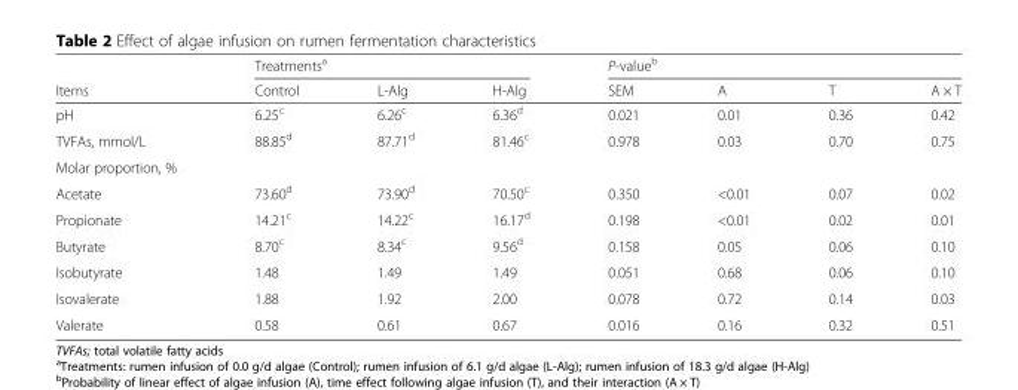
<table><thead><tr><td rowspan="2">Items</td><td colspan="3">Treatments<sup>a</sup></td><td colspan="4">P-value<sup>b</sup></td></tr><tr><td>Control</td><td>L-Alg</td><td>H-Alg</td><td>SEM</td><td>A</td><td>T</td><td>A × T</td></tr></thead><tbody><tr><td>pH</td><td>6.25<sup>c</sup></td><td>6.26<sup>c</sup></td><td>6.36<sup>d</sup></td><td>0.021</td><td>0.01</td><td>0.36</td><td>0.42</td></tr><tr><td>TVFAs, mmol/L</td><td>88.85<sup>d</sup></td><td>87.71<sup>d</sup></td><td>81.46<sup>c</sup></td><td>0.978</td><td>0.03</td><td>0.70</td><td>0.75</td></tr><tr><td colspan="8">Molar proportion, %</td></tr><tr><td>Acetate</td><td>73.60<sup>d</sup></td><td>73.90<sup>d</sup></td><td>70.50<sup>c</sup></td><td>0.350</td><td>&lt;0.01</td><td>0.07</td><td>0.02</td></tr><tr><td>Propionate</td><td>14.21<sup>c</sup></td><td>14.22<sup>c</sup></td><td>16.17<sup>d</sup></td><td>0.198</td><td>&lt;0.01</td><td>0.02</td><td>0.01</td></tr><tr><td>Butyrate</td><td>8.70<sup>c</sup></td><td>8.34<sup>c</sup></td><td>9.56<sup>d</sup></td><td>0.158</td><td>0.05</td><td>0.06</td><td>0.10</td></tr><tr><td>Isobutyrate</td><td>1.48</td><td>1.49</td><td>1.49</td><td>0.051</td><td>0.68</td><td>0.06</td><td>0.10</td></tr><tr><td>Isovalerate</td><td>1.88</td><td>1.92</td><td>2.00</td><td>0.078</td><td>0.72</td><td>0.14</td><td>0.03</td></tr><tr><td>Valerate</td><td>0.58</td><td>0.61</td><td>0.67</td><td>0.016</td><td>0.16</td><td>0.32</td><td>0.51</td></tr></tbody></table>